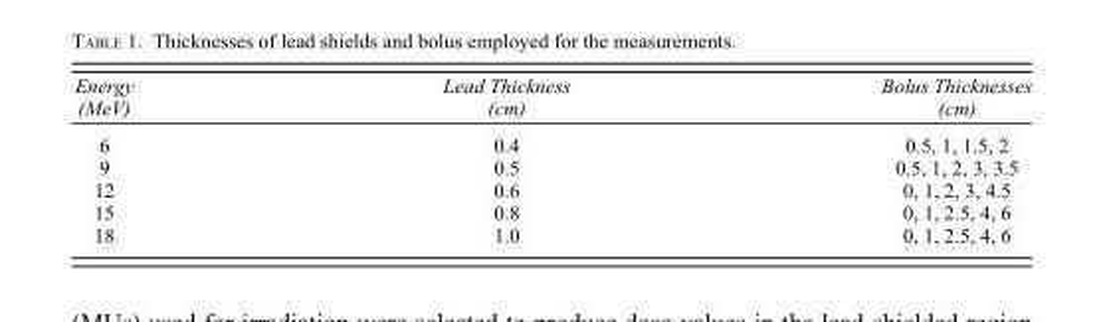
<table><thead><tr><td>Energy (MeV)</td><td>Lead Thickness (cm)</td><td>Bolus Thicknesses (cm)</td></tr></thead><tbody><tr><td>6</td><td>0.4</td><td>0.5, 1, 1.5, 2</td></tr><tr><td>9</td><td>0.5</td><td>0.5, 1, 2, 3, 3.5</td></tr><tr><td>12</td><td>0.6</td><td>0, 1, 2, 3, 4.5</td></tr><tr><td>15</td><td>0.8</td><td>0, 1, 2.5, 4, 6</td></tr><tr><td>18</td><td>1.0</td><td>0, 1, 2.5, 4, 6</td></tr></tbody></table>